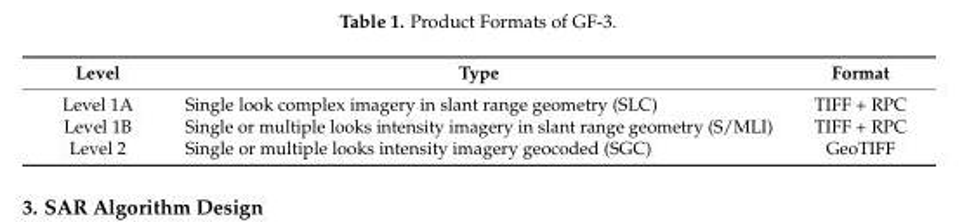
<table><thead><tr><td>Level</td><td>Type</td><td>Format</td></tr></thead><tbody><tr><td>Level 1A</td><td>Single look complex imagery in slant range geometry (SLC)</td><td>TIFF + RPC</td></tr><tr><td>Level 1B</td><td>Single or multiple looks intensity imagery in slant range geometry (S/MLI)</td><td>TIFF + RPC</td></tr><tr><td>Level 2</td><td>Single or multiple looks intensity imagery geocoded (SGC)</td><td>GeoTIFF</td></tr></tbody></table>